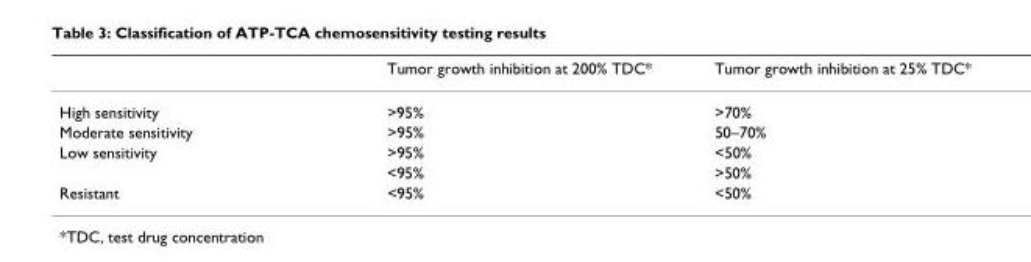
<table><thead><tr><td></td><td>Tumor growth inhibition at 200% TDC*</td><td>Tumor growth inhibition at 25% TDC*</td></tr></thead><tbody><tr><td>High sensitivity</td><td>&gt;95%</td><td>&gt;70%</td></tr><tr><td>Moderate sensitivity</td><td>&gt;95%</td><td>50–70%</td></tr><tr><td rowspan="2">Low sensitivity</td><td>&gt;95%</td><td>&lt;50%</td></tr><tr><td>&lt;95%</td><td>&gt;50%</td></tr><tr><td>Resistant</td><td>&lt;95%</td><td>&lt;50%</td></tr></tbody></table>